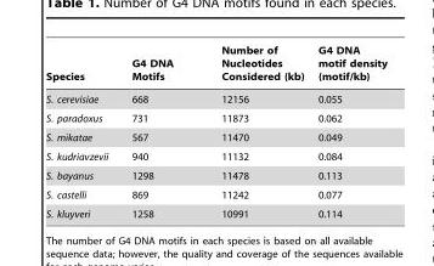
<table><thead><tr><td>Species</td><td>G4 DNA Motifs</td><td>Number of Nucleotides Considered (kb)</td><td>G4 DNA motif density (motif/kb)</td></tr></thead><tbody><tr><td>S. cerevisiae</td><td>668</td><td>12156</td><td>0.055</td></tr><tr><td>S. paradoxus</td><td>731</td><td>11873</td><td>0.062</td></tr><tr><td>S. mikatae</td><td>567</td><td>11470</td><td>0.049</td></tr><tr><td>S. kudriavzevii</td><td>940</td><td>11132</td><td>0.084</td></tr><tr><td>S. bayanus</td><td>1298</td><td>11478</td><td>0.113</td></tr><tr><td>S. castelli</td><td>869</td><td>11242</td><td>0.077</td></tr><tr><td>S. kluyveri</td><td>1258</td><td>10991</td><td>0.114</td></tr></tbody></table>